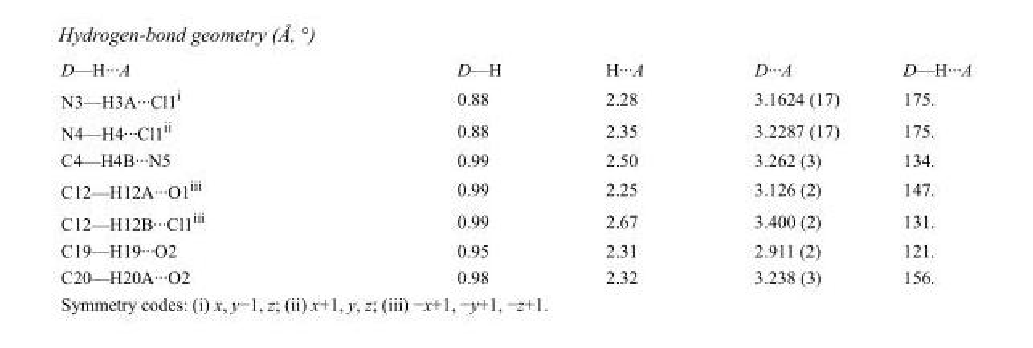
<table><tbody><tr><td>D—H···A</td><td>D—H</td><td>H···A</td><td>D···A</td><td>D—H···A</td></tr><tr><td>N3—H3A···Cl1<sup>i</sup></td><td>0.88</td><td>2.28</td><td>3.1624 (17)</td><td>175.</td></tr><tr><td>N4—H4···Cl1<sup>ii</sup></td><td>0.88</td><td>2.35</td><td>3.2287 (17)</td><td>175.</td></tr><tr><td>C4—H4B···N5</td><td>0.99</td><td>2.50</td><td>3.262 (3)</td><td>134.</td></tr><tr><td>C12—H12A···O1<sup>iii</sup></td><td>0.99</td><td>2.25</td><td>3.126 (2)</td><td>147.</td></tr><tr><td>C12—H12B···Cl1<sup>iii</sup></td><td>0.99</td><td>2.67</td><td>3.400 (2)</td><td>131.</td></tr><tr><td>C19—H19···O2</td><td>0.95</td><td>2.31</td><td>2.911 (2)</td><td>121.</td></tr><tr><td>C20—H20A···O2</td><td>0.98</td><td>2.32</td><td>3.238 (3)</td><td>156.</td></tr></tbody></table>